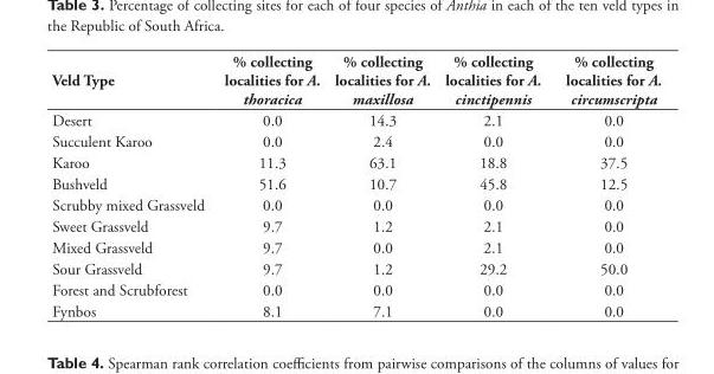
<table><tbody><tr><td>Veld Type</td><td>% collecting localities for A. thoracica</td><td>% collecting localities for A. maxillosa</td><td>% collecting localities for A. cinctipennis</td><td>% collecting localities for A. circumscripta</td></tr><tr><td>Desert</td><td>0.0</td><td>14.3</td><td>2.1</td><td>0.0</td></tr><tr><td>Succulent Karoo</td><td>0.0</td><td>2.4</td><td>0.0</td><td>0.0</td></tr><tr><td>Karoo</td><td>11.3</td><td>63.1</td><td>18.8</td><td>37.5</td></tr><tr><td>Bushveld</td><td>51.6</td><td>10.7</td><td>45.8</td><td>12.5</td></tr><tr><td>Scrubby mixed Grassveld</td><td>0.0</td><td>0.0</td><td>0.0</td><td>0.0</td></tr><tr><td>Sweet Grassveld</td><td>9.7</td><td>1.2</td><td>2.1</td><td>0.0</td></tr><tr><td>Mixed Grassveld</td><td>9.7</td><td>0.0</td><td>2.1</td><td>0.0</td></tr><tr><td>Sour Grassveld</td><td>9.7</td><td>1.2</td><td>29.2</td><td>50.0</td></tr><tr><td>Forest and Scrubforest</td><td>0.0</td><td>0.0</td><td>0.0</td><td>0.0</td></tr><tr><td>Fynbos</td><td>8.1</td><td>7.1</td><td>0.0</td><td>0.0</td></tr></tbody></table>